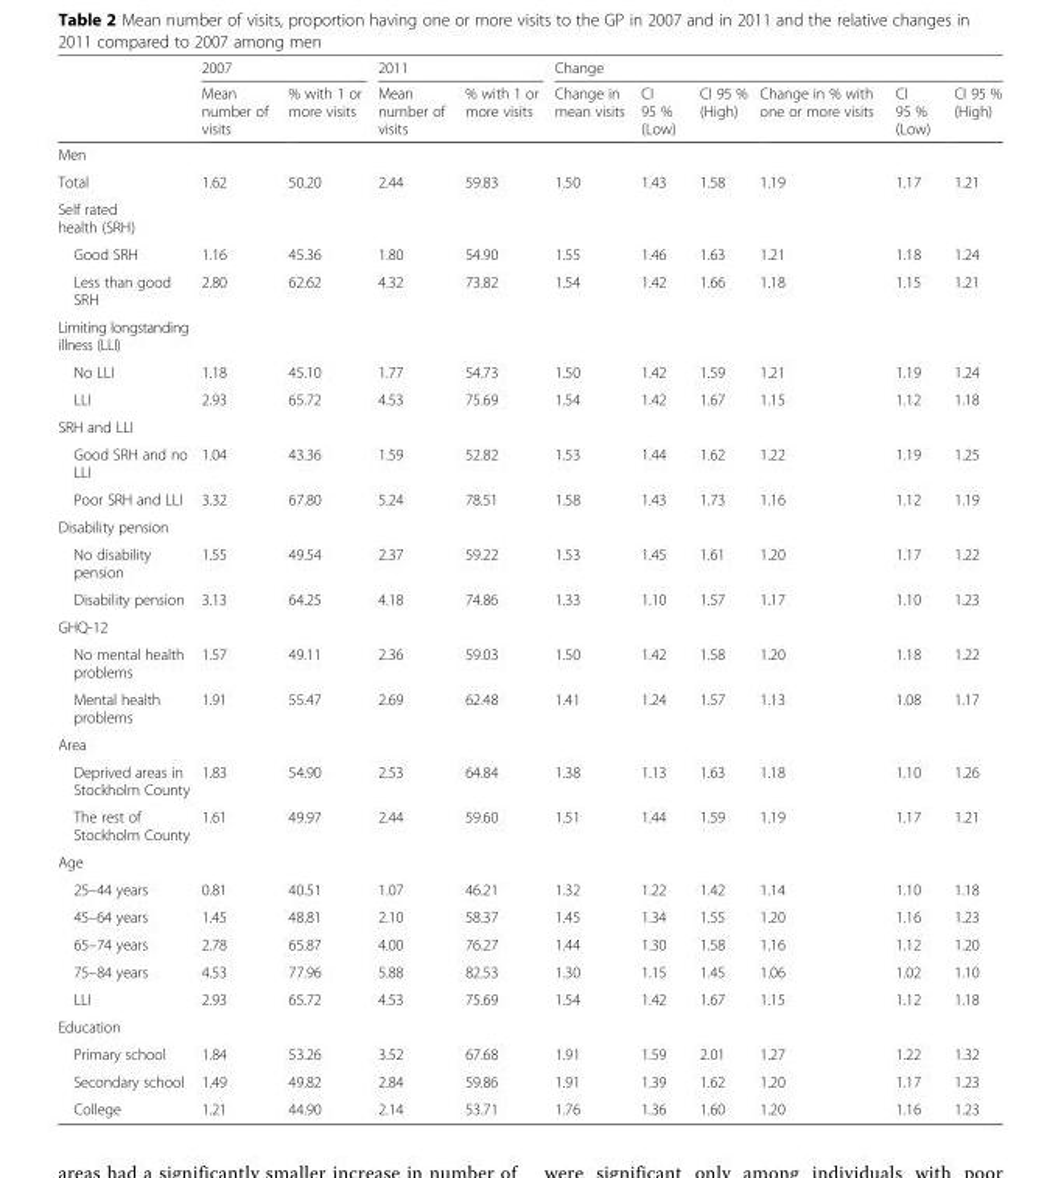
<table><thead><tr><td rowspan="2"></td><td colspan="2">2007</td><td colspan="2">2011</td><td colspan="6">Change</td></tr><tr><td>Mean number of visits</td><td>% with 1 or more visits</td><td>Mean number of visits</td><td>% with 1 or more visits</td><td>Change in mean visits</td><td>CI 95 % (Low)</td><td>CI 95 % (High)</td><td>Change in % with one or more visits</td><td>CI 95 % (Low)</td><td>CI 95 % (High)</td></tr></thead><tbody><tr><td colspan="11">Men</td></tr><tr><td>Total</td><td>1.62</td><td>50.20</td><td>2.44</td><td>59.83</td><td>1.50</td><td>1.43</td><td>1.58</td><td>1.19</td><td>1.17</td><td>1.21</td></tr><tr><td colspan="11">Self rated health (SRH)</td></tr><tr><td>Good SRH</td><td>1.16</td><td>45.36</td><td>1.80</td><td>54.90</td><td>1.55</td><td>1.46</td><td>1.63</td><td>1.21</td><td>1.18</td><td>1.24</td></tr><tr><td>Less than good SRH</td><td>2.80</td><td>62.62</td><td>4.32</td><td>73.82</td><td>1.54</td><td>1.42</td><td>1.66</td><td>1.18</td><td>1.15</td><td>1.21</td></tr><tr><td colspan="11">Limiting longstanding illness (LLI)</td></tr><tr><td>No LLI</td><td>1.18</td><td>45.10</td><td>1.77</td><td>54.73</td><td>1.50</td><td>1.42</td><td>1.59</td><td>1.21</td><td>1.19</td><td>1.24</td></tr><tr><td>LLI</td><td>2.93</td><td>65.72</td><td>4.53</td><td>75.69</td><td>1.54</td><td>1.42</td><td>1.67</td><td>1.15</td><td>1.12</td><td>1.18</td></tr><tr><td colspan="11">SRH and LLI</td></tr><tr><td>Good SRH and no LLI</td><td>1.04</td><td>43.36</td><td>1.59</td><td>52.82</td><td>1.53</td><td>1.44</td><td>1.62</td><td>1.22</td><td>1.19</td><td>1.25</td></tr><tr><td>Poor SRH and LLI</td><td>3.32</td><td>67.80</td><td>5.24</td><td>78.51</td><td>1.58</td><td>1.43</td><td>1.73</td><td>1.16</td><td>1.12</td><td>1.19</td></tr><tr><td colspan="11">Disability pension</td></tr><tr><td>No disability pension</td><td>1.55</td><td>49.54</td><td>2.37</td><td>59.22</td><td>1.53</td><td>1.45</td><td>1.61</td><td>1.20</td><td>1.17</td><td>1.22</td></tr><tr><td>Disability pension</td><td>3.13</td><td>64.25</td><td>4.18</td><td>74.86</td><td>1.33</td><td>1.10</td><td>1.57</td><td>1.17</td><td>1.10</td><td>1.23</td></tr><tr><td colspan="11">GHQ-12</td></tr><tr><td>No mental health problems</td><td>1.57</td><td>49.11</td><td>2.36</td><td>59.03</td><td>1.50</td><td>1.42</td><td>1.58</td><td>1.20</td><td>1.18</td><td>1.22</td></tr><tr><td>Mental health problems</td><td>1.91</td><td>55.47</td><td>2.69</td><td>62.48</td><td>1.41</td><td>1.24</td><td>1.57</td><td>1.13</td><td>1.08</td><td>1.17</td></tr><tr><td colspan="11">Area</td></tr><tr><td>Deprived areas in Stockholm County</td><td>1.83</td><td>54.90</td><td>2.53</td><td>64.84</td><td>1.38</td><td>1.13</td><td>1.63</td><td>1.18</td><td>1.10</td><td>1.26</td></tr><tr><td>The rest of Stockholm County</td><td>1.61</td><td>49.97</td><td>2.44</td><td>59.60</td><td>1.51</td><td>1.44</td><td>1.59</td><td>1.19</td><td>1.17</td><td>1.21</td></tr><tr><td colspan="11">Age</td></tr><tr><td>25–44 years</td><td>0.81</td><td>40.51</td><td>1.07</td><td>46.21</td><td>1.32</td><td>1.22</td><td>1.42</td><td>1.14</td><td>1.10</td><td>1.18</td></tr><tr><td>45–64 years</td><td>1.45</td><td>48.81</td><td>2.10</td><td>58.37</td><td>1.45</td><td>1.34</td><td>1.55</td><td>1.20</td><td>1.16</td><td>1.23</td></tr><tr><td>65–74 years</td><td>2.78</td><td>65.87</td><td>4.00</td><td>76.27</td><td>1.44</td><td>1.30</td><td>1.58</td><td>1.16</td><td>1.12</td><td>1.20</td></tr><tr><td>75–84 years</td><td>4.53</td><td>77.96</td><td>5.88</td><td>82.53</td><td>1.30</td><td>1.15</td><td>1.45</td><td>1.06</td><td>1.02</td><td>1.10</td></tr><tr><td>LLI</td><td>2.93</td><td>65.72</td><td>4.53</td><td>75.69</td><td>1.54</td><td>1.42</td><td>1.67</td><td>1.15</td><td>1.12</td><td>1.18</td></tr><tr><td colspan="11">Education</td></tr><tr><td>Primary school</td><td>1.84</td><td>53.26</td><td>3.52</td><td>67.68</td><td>1.91</td><td>1.59</td><td>2.01</td><td>1.27</td><td>1.22</td><td>1.32</td></tr><tr><td>Secondary school</td><td>1.49</td><td>49.82</td><td>2.84</td><td>59.86</td><td>1.91</td><td>1.39</td><td>1.62</td><td>1.20</td><td>1.17</td><td>1.23</td></tr><tr><td>College</td><td>1.21</td><td>44.90</td><td>2.14</td><td>53.71</td><td>1.76</td><td>1.36</td><td>1.60</td><td>1.20</td><td>1.16</td><td>1.23</td></tr></tbody></table>